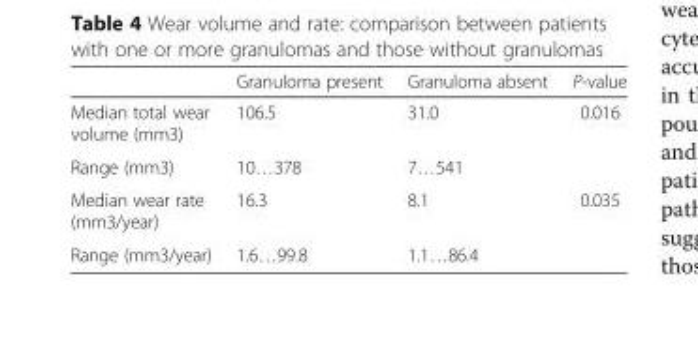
<table><thead><tr><td></td><td>Granuloma present</td><td>Granuloma absent</td><td>P-value</td></tr></thead><tbody><tr><td>Median total wear volume (mm3)</td><td>106.5</td><td>31.0</td><td rowspan="2">0.016</td></tr><tr><td>Range (mm3)</td><td>10…378</td><td>7…541</td></tr><tr><td>Median wear rate (mm3/year)</td><td>16.3</td><td>8.1</td><td rowspan="2">0.035</td></tr><tr><td>Range (mm3/year)</td><td>1.6…99.8</td><td>1.1…86.4</td></tr></tbody></table>